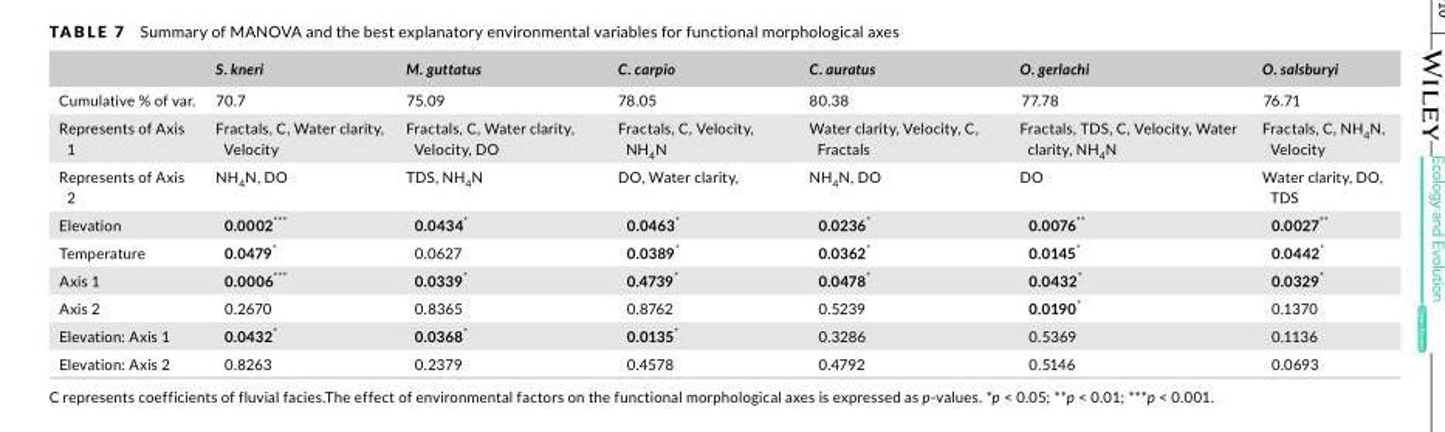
<table><thead><tr><td></td><td>S. kneri</td><td>M. guttatus</td><td>C. carpio</td><td>C. auratus</td><td>O. gerlachi</td><td>O. salsburyi</td></tr></thead><tbody><tr><td>Cumulative % of var.</td><td>70.7</td><td>75.09</td><td>78.05</td><td>80.38</td><td>77.78</td><td>76.71</td></tr><tr><td>Represents of Axis 1</td><td>Fractals, C, Water clarity, Velocity</td><td>Fractals, C, Water clarity, Velocity, DO</td><td>Fractals, C, Velocity, NH<sub>4</sub>N</td><td>Water clarity, Velocity, C, Fractals</td><td>Fractals, TDS, C, Velocity, Water clarity, NH<sub>4</sub>N</td><td>Fractals, C, NH<sub>4</sub>N, Velocity</td></tr><tr><td>Represents of Axis 2</td><td>NH<sub>4</sub>N, DO</td><td>TDS, NH<sub>4</sub>N</td><td>DO, Water clarity,</td><td>NH<sub>4</sub>N, DO</td><td>DO</td><td>Water clarity, DO, TDS</td></tr><tr><td>Elevation</td><td>0.0002***</td><td>0.0434*</td><td>0.0463*</td><td>0.0236*</td><td>0.0076**</td><td>0.0027**</td></tr><tr><td>Temperature</td><td>0.0479*</td><td>0.0627</td><td>0.0389*</td><td>0.0362*</td><td>0.0145*</td><td>0.0442*</td></tr><tr><td>Axis 1</td><td>0.0006***</td><td>0.0339*</td><td>0.4739*</td><td>0.0478*</td><td>0.0432*</td><td>0.0329*</td></tr><tr><td>Axis 2</td><td>0.2670</td><td>0.8365</td><td>0.8762</td><td>0.5239</td><td>0.0190*</td><td>0.1370</td></tr><tr><td>Elevation: Axis 1</td><td>0.0432*</td><td>0.0368*</td><td>0.0135*</td><td>0.3286</td><td>0.5369</td><td>0.1136</td></tr><tr><td>Elevation: Axis 2</td><td>0.8263</td><td>0.2379</td><td>0.4578</td><td>0.4792</td><td>0.5146</td><td>0.0693</td></tr></tbody></table>